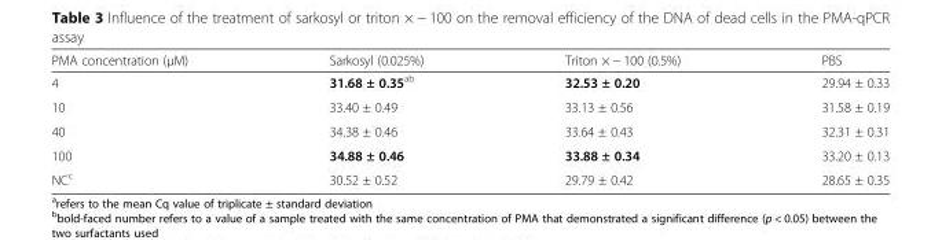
<table><thead><tr><td>PMA concentration (μM)</td><td>Sarkosyl (0.025%)</td><td>Triton × − 100 (0.5%)</td><td>PBS</td></tr></thead><tbody><tr><td>4</td><td>31.68 ± 0.35<sup>ab</sup></td><td>32.53 ± 0.20</td><td>29.94 ± 0.33</td></tr><tr><td>10</td><td>33.40 ± 0.49</td><td>33.13 ± 0.56</td><td>31.58 ± 0.19</td></tr><tr><td>40</td><td>34.38 ± 0.46</td><td>33.64 ± 0.43</td><td>32.31 ± 0.31</td></tr><tr><td>100</td><td>34.88 ± 0.46</td><td>33.88 ± 0.34</td><td>33.20 ± 0.13</td></tr><tr><td>NC<sup>c</sup></td><td>30.52 ± 0.52</td><td>29.79 ± 0.42</td><td>28.65 ± 0.35</td></tr></tbody></table>